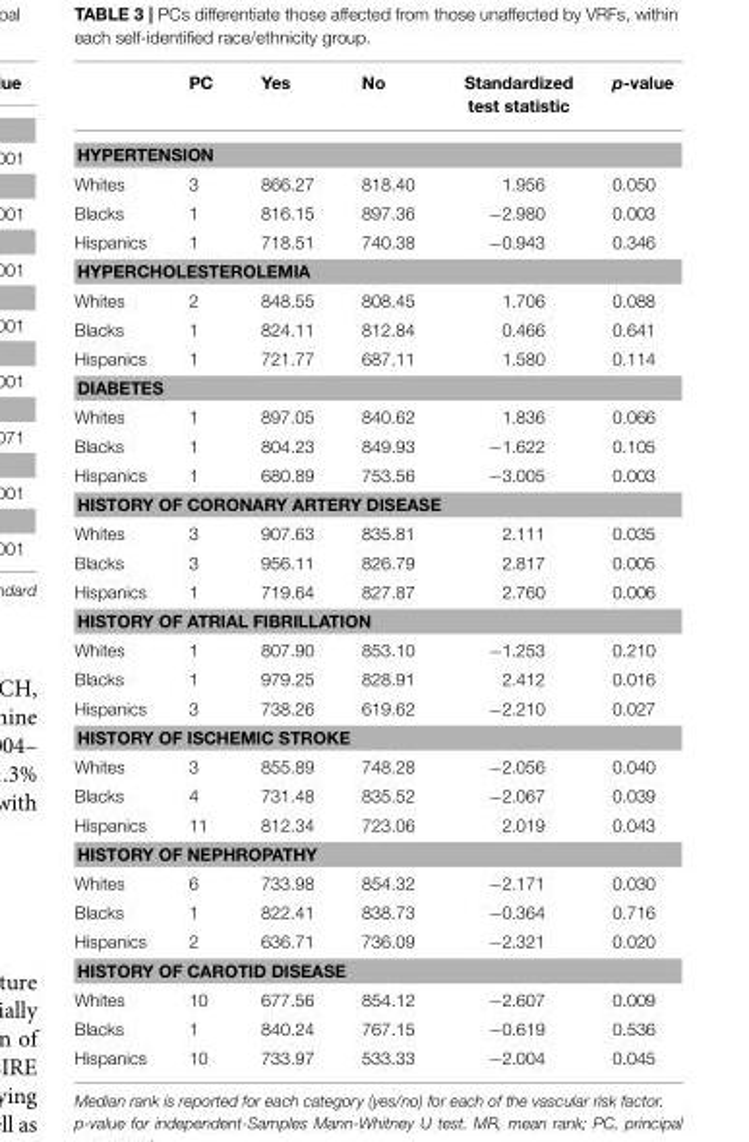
<table><thead><tr><td></td><td>PC</td><td>Yes</td><td>No</td><td>Standardized test statistic</td><td>p-value</td></tr></thead><tbody><tr><td colspan="6">HYPERTENSION</td></tr><tr><td>Whites</td><td>3</td><td>866.27</td><td>818.40</td><td>1.956</td><td>0.050</td></tr><tr><td>Blacks</td><td>1</td><td>816.15</td><td>897.36</td><td>−2.980</td><td>0.003</td></tr><tr><td>Hispanics</td><td>1</td><td>718.51</td><td>740.38</td><td>−0.943</td><td>0.346</td></tr><tr><td colspan="6">HYPERCHOLESTEROLEMIA</td></tr><tr><td>Whites</td><td>2</td><td>848.55</td><td>808.45</td><td>1.706</td><td>0.088</td></tr><tr><td>Blacks</td><td>1</td><td>824.11</td><td>812.84</td><td>0.466</td><td>0.641</td></tr><tr><td>Hispanics</td><td>1</td><td>721.77</td><td>687.11</td><td>1.580</td><td>0.114</td></tr><tr><td colspan="6">DIABETES</td></tr><tr><td>Whites</td><td>1</td><td>897.05</td><td>840.62</td><td>1.836</td><td>0.066</td></tr><tr><td>Blacks</td><td>1</td><td>804.23</td><td>849.93</td><td>−1.622</td><td>0.105</td></tr><tr><td>Hispanics</td><td>1</td><td>680.89</td><td>753.56</td><td>−3.005</td><td>0.003</td></tr><tr><td colspan="6">HISTORY OF CORONARY ARTERY DISEASE</td></tr><tr><td>Whites</td><td>3</td><td>907.63</td><td>835.81</td><td>2.111</td><td>0.035</td></tr><tr><td>Blacks</td><td>3</td><td>956.11</td><td>826.79</td><td>2.817</td><td>0.005</td></tr><tr><td>Hispanics</td><td>1</td><td>719.64</td><td>827.87</td><td>2.760</td><td>0.006</td></tr><tr><td colspan="6">HISTORY OF ATRIAL FIBRILLATION</td></tr><tr><td>Whites</td><td>1</td><td>807.90</td><td>853.10</td><td>−1.253</td><td>0.210</td></tr><tr><td>Blacks</td><td>1</td><td>979.25</td><td>828.91</td><td>2.412</td><td>0.016</td></tr><tr><td>Hispanics</td><td>3</td><td>738.26</td><td>619.62</td><td>−2.210</td><td>0.027</td></tr><tr><td colspan="6">HISTORY OF ISCHEMIC STROKE</td></tr><tr><td>Whites</td><td>3</td><td>855.89</td><td>748.28</td><td>−2.056</td><td>0.040</td></tr><tr><td>Blacks</td><td>4</td><td>731.48</td><td>835.52</td><td>−2.067</td><td>0.039</td></tr><tr><td>Hispanics</td><td>11</td><td>812.34</td><td>723.06</td><td>2.019</td><td>0.043</td></tr><tr><td colspan="6">HISTORY OF NEPHROPATHY</td></tr><tr><td>Whites</td><td>6</td><td>733.98</td><td>854.32</td><td>−2.171</td><td>0.030</td></tr><tr><td>Blacks</td><td>1</td><td>822.41</td><td>838.73</td><td>−0.364</td><td>0.716</td></tr><tr><td>Hispanics</td><td>2</td><td>636.71</td><td>736.09</td><td>−2.321</td><td>0.020</td></tr><tr><td colspan="6">HISTORY OF CAROTID DISEASE</td></tr><tr><td>Whites</td><td>10</td><td>677.56</td><td>854.12</td><td>−2.607</td><td>0.009</td></tr><tr><td>Blacks</td><td>1</td><td>840.24</td><td>767.15</td><td>−0.619</td><td>0.536</td></tr><tr><td>Hispanics</td><td>10</td><td>733.97</td><td>533.33</td><td>−2.004</td><td>0.045</td></tr></tbody></table>